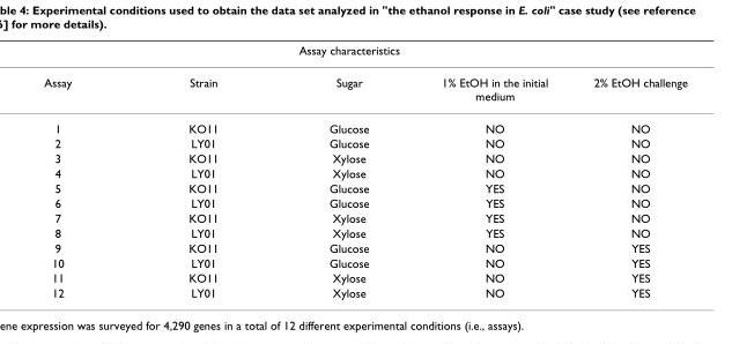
<table><thead><tr><td colspan="5">Assay characteristics</td></tr><tr><td>Assay</td><td>Strain</td><td>Sugar</td><td>1% EtOH in the initial medium</td><td>2% EtOH challenge</td></tr></thead><tbody><tr><td>1</td><td>KO11</td><td>Glucose</td><td>NO</td><td>NO</td></tr><tr><td>2</td><td>LY01</td><td>Glucose</td><td>NO</td><td>NO</td></tr><tr><td>3</td><td>KO11</td><td>Xylose</td><td>NO</td><td>NO</td></tr><tr><td>4</td><td>LY01</td><td>Xylose</td><td>NO</td><td>NO</td></tr><tr><td>5</td><td>KO11</td><td>Glucose</td><td>YES</td><td>NO</td></tr><tr><td>6</td><td>LY01</td><td>Glucose</td><td>YES</td><td>NO</td></tr><tr><td>7</td><td>KO11</td><td>Xylose</td><td>YES</td><td>NO</td></tr><tr><td>8</td><td>LY01</td><td>Xylose</td><td>YES</td><td>NO</td></tr><tr><td>9</td><td>KO11</td><td>Glucose</td><td>NO</td><td>YES</td></tr><tr><td>10</td><td>LY01</td><td>Glucose</td><td>NO</td><td>YES</td></tr><tr><td>11</td><td>KO11</td><td>Xylose</td><td>NO</td><td>YES</td></tr><tr><td>12</td><td>LY01</td><td>Xylose</td><td>NO</td><td>YES</td></tr></tbody></table>